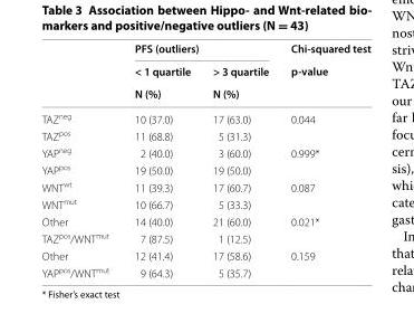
<table><thead><tr><td rowspan="3"></td><td colspan="2">PFS (outliers)</td><td rowspan="3">Chi-squared test p-value</td></tr><tr><td rowspan="2">&lt; 1 quartile N (%)</td><td rowspan="2">&gt; 3 quartile N (%)</td></tr><tr></tr></thead><tbody><tr><td>TAZ<sup>neg</sup></td><td>10 (37.0)</td><td>17 (63.0)</td><td>0.044</td></tr><tr><td>TAZ<sup>pos</sup></td><td>11 (68.8)</td><td>5 (31.3)</td><td></td></tr><tr><td>YAP<sup>neg</sup></td><td>2 (40.0)</td><td>3 (60.0)</td><td>0.999*</td></tr><tr><td>YAP<sup>pos</sup></td><td>19 (50.0)</td><td>19 (50.0)</td><td></td></tr><tr><td>WNT<sup>wt</sup></td><td>11 (39.3)</td><td>17 (60.7)</td><td>0.087</td></tr><tr><td>WNT<sup>mut</sup></td><td>10 (66.7)</td><td>5 (33.3)</td><td></td></tr><tr><td>Other</td><td>14 (40.0)</td><td>21 (60.0)</td><td>0.021*</td></tr><tr><td>TAZ<sup>pos</sup>/WNT<sup>mut</sup></td><td>7 (87.5)</td><td>1 (12.5)</td><td></td></tr><tr><td>Other</td><td>12 (41.4)</td><td>17 (58.6)</td><td>0.159</td></tr><tr><td>YAP<sup>pos</sup>/WNT<sup>mut</sup></td><td>9 (64.3)</td><td>5 (35.7)</td><td></td></tr></tbody></table>